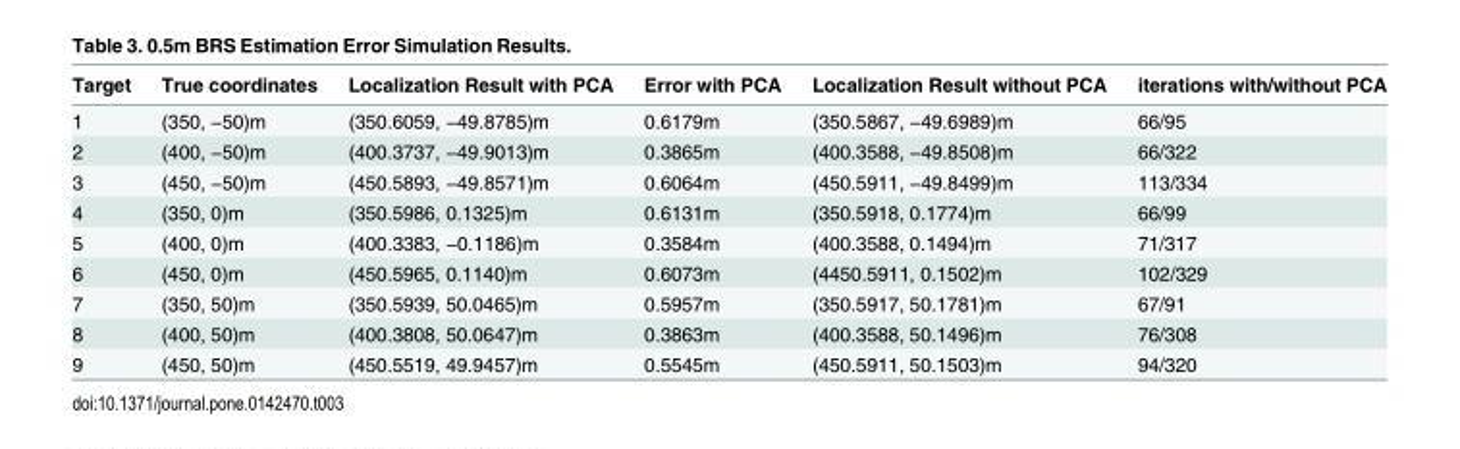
<table><thead><tr><td>Target</td><td>True coordinates</td><td>Localization Result with PCA</td><td>Error with PCA</td><td>Localization Result without PCA</td><td>iterations with/without PCA</td></tr></thead><tbody><tr><td>1</td><td>(350, −50)m</td><td>(350.6059, −49.8785)m</td><td>0.6179m</td><td>(350.5867, −49.6989)m</td><td>66/95</td></tr><tr><td>2</td><td>(400, −50)m</td><td>(400.3737, −49.9013)m</td><td>0.3865m</td><td>(400.3588, −49.8508)m</td><td>66/322</td></tr><tr><td>3</td><td>(450, −50)m</td><td>(450.5893, −49.8571)m</td><td>0.6064m</td><td>(450.5911, −49.8499)m</td><td>113/334</td></tr><tr><td>4</td><td>(350, 0)m</td><td>(350.5986, 0.1325)m</td><td>0.6131m</td><td>(350.5918, 0.1774)m</td><td>66/99</td></tr><tr><td>5</td><td>(400, 0)m</td><td>(400.3383, −0.1186)m</td><td>0.3584m</td><td>(400.3588, 0.1494)m</td><td>71/317</td></tr><tr><td>6</td><td>(450, 0)m</td><td>(450.5965, 0.1140)m</td><td>0.6073m</td><td>(4450.5911, 0.1502)m</td><td>102/329</td></tr><tr><td>7</td><td>(350, 50)m</td><td>(350.5939, 50.0465)m</td><td>0.5957m</td><td>(350.5917, 50.1781)m</td><td>67/91</td></tr><tr><td>8</td><td>(400, 50)m</td><td>(400.3808, 50.0647)m</td><td>0.3863m</td><td>(400.3588, 50.1496)m</td><td>76/308</td></tr><tr><td>9</td><td>(450, 50)m</td><td>(450.5519, 49.9457)m</td><td>0.5545m</td><td>(450.5911, 50.1503)m</td><td>94/320</td></tr></tbody></table>